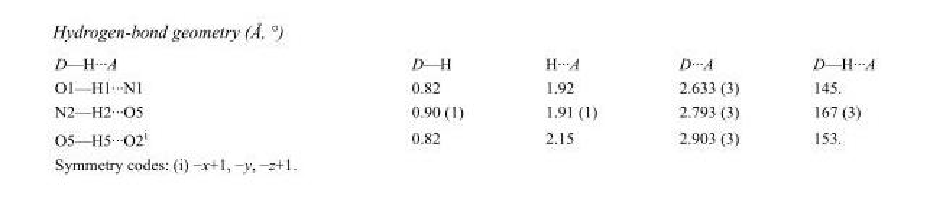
<table><tbody><tr><td>D—H···A</td><td>D—H</td><td>H···A</td><td>D···A</td><td>D—H···A</td></tr><tr><td>O1—H1···N1</td><td>0.82</td><td>1.92</td><td>2.633 (3)</td><td>145.</td></tr><tr><td>N2—H2···O5</td><td>0.90 (1)</td><td>1.91 (1)</td><td>2.793 (3)</td><td>167 (3)</td></tr><tr><td>O5—H5···O2<sup>i</sup></td><td>0.82</td><td>2.15</td><td>2.903 (3)</td><td>153.</td></tr></tbody></table>